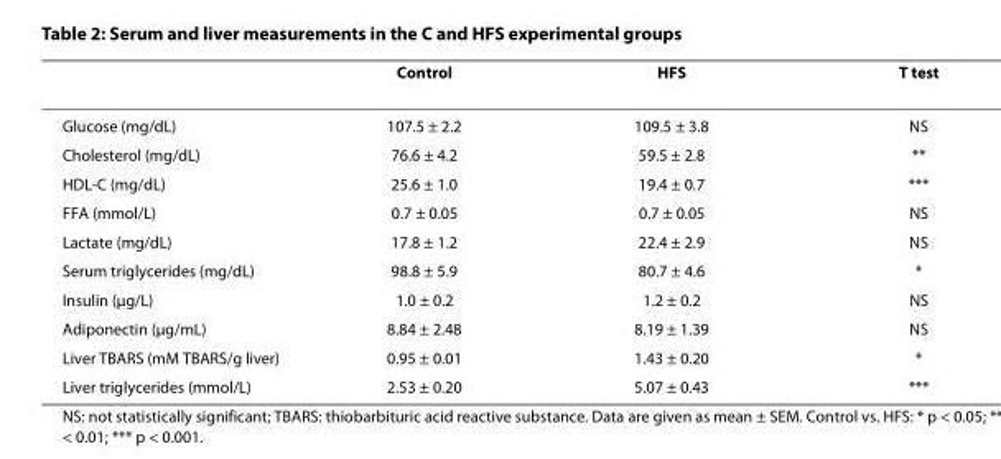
<table><thead><tr><td></td><td>Control</td><td>HFS</td><td>T test</td></tr></thead><tbody><tr><td>Glucose (mg/dL)</td><td>107.5 ± 2.2</td><td>109.5 ± 3.8</td><td>NS</td></tr><tr><td>Cholesterol (mg/dL)</td><td>76.6 ± 4.2</td><td>59.5 ± 2.8</td><td>**</td></tr><tr><td>HDL-C (mg/dL)</td><td>25.6 ± 1.0</td><td>19.4 ± 0.7</td><td>***</td></tr><tr><td>FFA (mmol/L)</td><td>0.7 ± 0.05</td><td>0.7 ± 0.05</td><td>NS</td></tr><tr><td>Lactate (mg/dL)</td><td>17.8 ± 1.2</td><td>22.4 ± 2.9</td><td>NS</td></tr><tr><td>Serum triglycerides (mg/dL)</td><td>98.8 ± 5.9</td><td>80.7 ± 4.6</td><td>*</td></tr><tr><td>Insulin (μg/L)</td><td>1.0 ± 0.2</td><td>1.2 ± 0.2</td><td>NS</td></tr><tr><td>Adiponectin (μg/mL)</td><td>8.84 ± 2.48</td><td>8.19 ± 1.39</td><td>NS</td></tr><tr><td>Liver TBARS (mM TBARS/g liver)</td><td>0.95 ± 0.01</td><td>1.43 ± 0.20</td><td>*</td></tr><tr><td>Liver triglycerides (mmol/L)</td><td>2.53 ± 0.20</td><td>5.07 ± 0.43</td><td>***</td></tr></tbody></table>